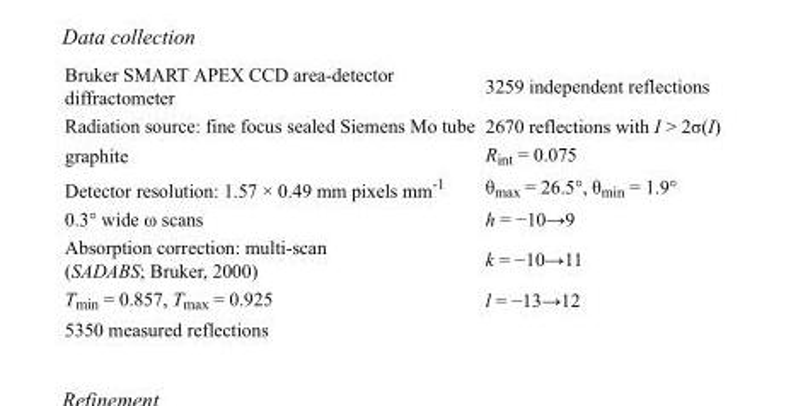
<table><tbody><tr><td>Bruker SMART APEX CCD area-detector diffractometer</td><td>3259 independent reflections</td></tr><tr><td>Radiation source: fine focus sealed Siemens Mo tube</td><td>2670 reflections with I &gt; 2σ(I)</td></tr><tr><td>graphite</td><td>R<sub>int</sub> = 0.075</td></tr><tr><td>Detector resolution: 1.57 × 0.49 mm pixels mm<sup>-1</sup></td><td>θ<sub>max</sub> = 26.5°, θ<sub>min</sub> = 1.9°</td></tr><tr><td>0.3° wide ω scans</td><td>h = −10→9</td></tr><tr><td>Absorption correction: multi-scan (SADABS; Bruker, 2000)</td><td>k = −10→11</td></tr><tr><td>T<sub>min</sub> = 0.857, T<sub>max</sub> = 0.925</td><td>l = −13→12</td></tr><tr><td>5350 measured reflections</td><td></td></tr></tbody></table>